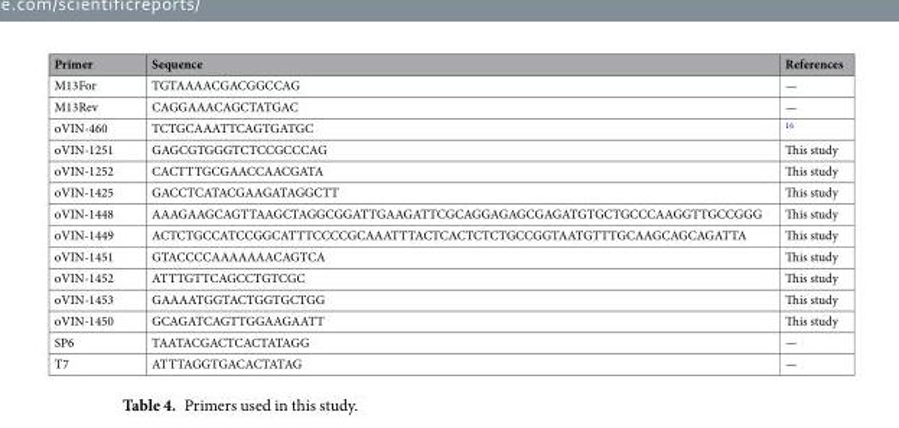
<table><thead><tr><td>Primer</td><td>Sequence</td><td>References</td></tr></thead><tbody><tr><td>M13For</td><td>TGTAAAACGACGGCCAG</td><td>—</td></tr><tr><td>M13Rev</td><td>CAGGAAACAGCTATGAC</td><td>—</td></tr><tr><td>oVIN-460</td><td>TCTGCAAATTCAGTGATGC</td><td><sup>16</sup></td></tr><tr><td>oVIN-1251</td><td>GAGCGTGGGTCTCCGCCCAG</td><td>This study</td></tr><tr><td>oVIN-1252</td><td>CACTTTGCGAACCAACGATA</td><td>This study</td></tr><tr><td>oVIN-1425</td><td>GACCTCATACGAAGATAGGCTT</td><td>This study</td></tr><tr><td>oVIN-1448</td><td>AAAGAAGCAGTTAAGCTAGGCGGATTGAAGATTCGCAGGAGAGCGAGATGTGCTGCCCAAGGTTGCCGGG</td><td>This study</td></tr><tr><td>oVIN-1449</td><td>ACTCTGCCATCCGGCATTTCCCCGCAAATTTACTCACTCTCTGCCGGTAATGTTTGCAAGCAGCAGATTA</td><td>This study</td></tr><tr><td>oVIN-1451</td><td>GTACCCCAAAAAAACAGTCA</td><td>This study</td></tr><tr><td>oVIN-1452</td><td>ATTTGTTCAGCCTGTCGC</td><td>This study</td></tr><tr><td>oVIN-1453</td><td>GAAAATGGTACTGGTGCTGG</td><td>This study</td></tr><tr><td>oVIN-1450</td><td>GCAGATCAGTTGGAAGAATT</td><td>This study</td></tr><tr><td>SP6</td><td>TAATACGACTCACTATAGG</td><td>—</td></tr><tr><td>T7</td><td>ATTTAGGTGACACTATAG</td><td>—</td></tr></tbody></table>